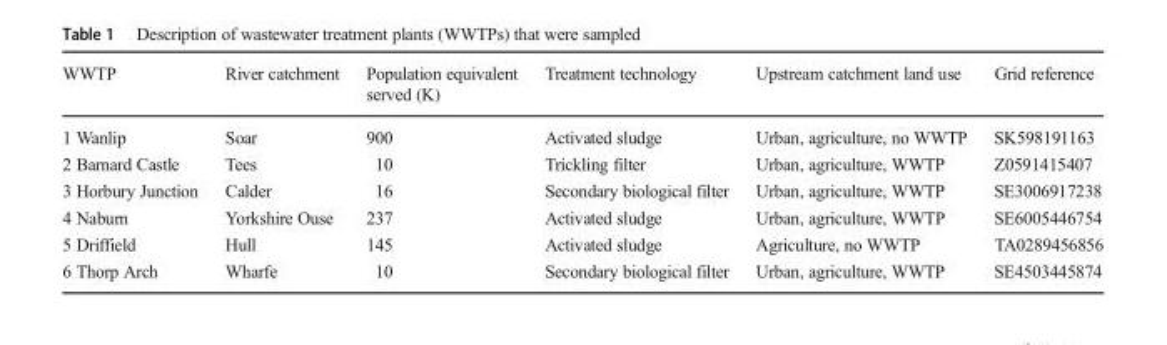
<table><thead><tr><td>WWTP</td><td>River catchment</td><td>Population equivalent served (K)</td><td>Treatment technology</td><td>Upstream catchment land use</td><td>Grid reference</td></tr></thead><tbody><tr><td>1 Wanlip</td><td>Soar</td><td>900</td><td>Activated sludge</td><td>Urban, agriculture, no WWTP</td><td>SK598191163</td></tr><tr><td>2 Barnard Castle</td><td>Tees</td><td>10</td><td>Trickling filter</td><td>Urban, agriculture, WWTP</td><td>Z0591415407</td></tr><tr><td>3 Horbury Junction</td><td>Calder</td><td>16</td><td>Secondary biological filter</td><td>Urban, agriculture, WWTP</td><td>SE3006917238</td></tr><tr><td>4 Naburn</td><td>Yorkshire Ouse</td><td>237</td><td>Activated sludge</td><td>Urban, agriculture, WWTP</td><td>SE6005446754</td></tr><tr><td>5 Driffield</td><td>Hull</td><td>145</td><td>Activated sludge</td><td>Agriculture, no WWTP</td><td>TA0289456856</td></tr><tr><td>6 Thorp Arch</td><td>Wharfe</td><td>10</td><td>Secondary biological filter</td><td>Urban, agriculture, WWTP</td><td>SE4503445874</td></tr></tbody></table>